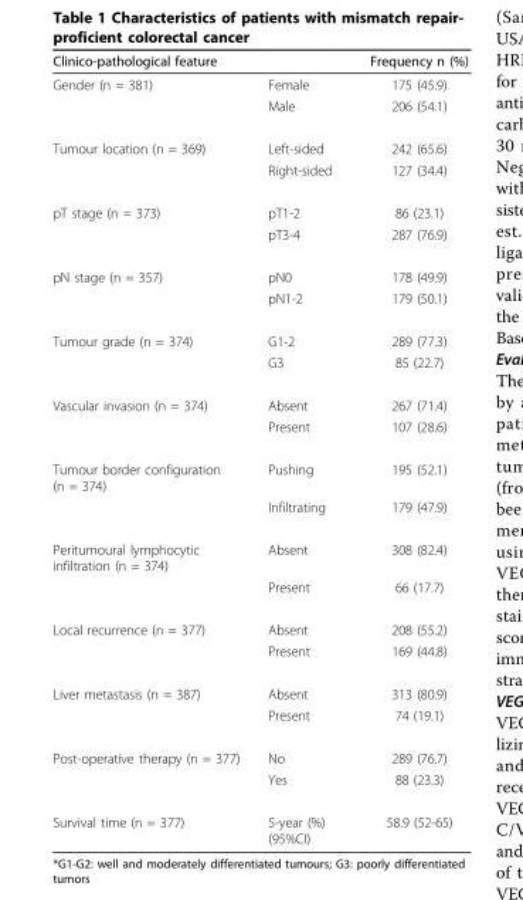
<table><thead><tr><td>Clinico-pathological feature</td><td></td><td>Frequency n (%)</td></tr></thead><tbody><tr><td rowspan="2">Gender (n = 381)</td><td>Female</td><td>175 (45.9)</td></tr><tr><td>Male</td><td>206 (54.1)</td></tr><tr><td rowspan="2">Tumour location (n = 369)</td><td>Left-sided</td><td>242 (65.6)</td></tr><tr><td>Right-sided</td><td>127 (34.4)</td></tr><tr><td rowspan="2">pT stage (n = 373)</td><td>pT1-2</td><td>86 (23.1)</td></tr><tr><td>pT3-4</td><td>287 (76.9)</td></tr><tr><td rowspan="2">pN stage (n = 357)</td><td>pN0</td><td>178 (49.9)</td></tr><tr><td>pN1-2</td><td>179 (50.1)</td></tr><tr><td rowspan="2">Tumour grade (n = 374)</td><td>G1-2</td><td>289 (77.3)</td></tr><tr><td>G3</td><td>85 (22.7)</td></tr><tr><td rowspan="2">Vascular invasion (n = 374)</td><td>Absent</td><td>267 (71.4)</td></tr><tr><td>Present</td><td>107 (28.6)</td></tr><tr><td rowspan="2">Tumour border configuration (n = 374)</td><td>Pushing</td><td>195 (52.1)</td></tr><tr><td>Infiltrating</td><td>179 (47.9)</td></tr><tr><td rowspan="2">Peritumoural lymphocytic infiltration (n = 374)</td><td>Absent</td><td>308 (82.4)</td></tr><tr><td>Present</td><td>66 (17.7)</td></tr><tr><td rowspan="2">Local recurrence (n = 377)</td><td>Absent</td><td>208 (55.2)</td></tr><tr><td>Present</td><td>169 (44.8)</td></tr><tr><td rowspan="2">Liver metastasis (n = 387)</td><td>Absent</td><td>313 (80.9)</td></tr><tr><td>Present</td><td>74 (19.1)</td></tr><tr><td rowspan="2">Post-operative therapy (n = 377)</td><td>No</td><td>289 (76.7)</td></tr><tr><td>Yes</td><td>88 (23.3)</td></tr><tr><td>Survival time (n = 377)</td><td>5-year (%) (95%CI)</td><td>58.9 (52-65)</td></tr></tbody></table>